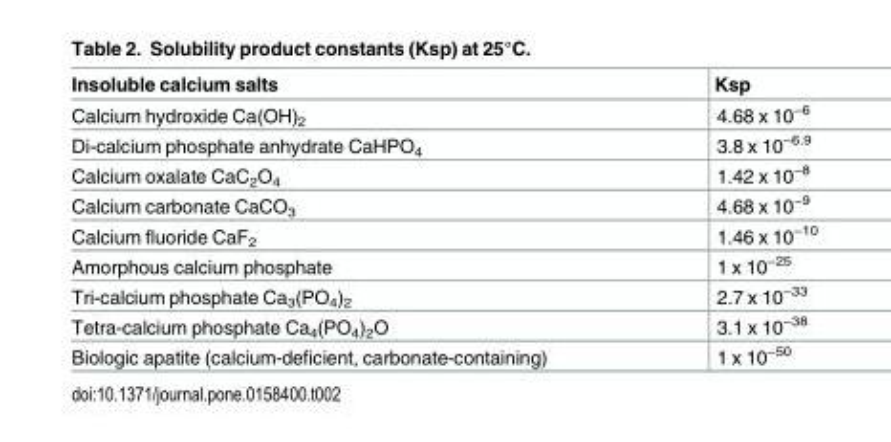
<table><thead><tr><td>Insoluble calcium salts</td><td>Ksp</td></tr></thead><tbody><tr><td>Calcium hydroxide Ca(OH)<sub>2</sub></td><td>4.68 x 10<sup>−6</sup></td></tr><tr><td>Di-calcium phosphate anhydrate CaHPO<sub>4</sub></td><td>3.8 x 10<sup>−6.9</sup></td></tr><tr><td>Calcium oxalate CaC<sub>2</sub>O<sub>4</sub></td><td>1.42 x 10<sup>−8</sup></td></tr><tr><td>Calcium carbonate CaCO<sub>3</sub></td><td>4.68 x 10<sup>−9</sup></td></tr><tr><td>Calcium fluoride CaF<sub>2</sub></td><td>1.46 x 10<sup>−10</sup></td></tr><tr><td>Amorphous calcium phosphate</td><td>1 x 10<sup>−25</sup></td></tr><tr><td>Tri-calcium phosphate Ca<sub>3</sub>(PO<sub>4</sub>)<sub>2</sub></td><td>2.7 x 10<sup>−33</sup></td></tr><tr><td>Tetra-calcium phosphate Ca<sub>4</sub>(PO<sub>4</sub>)<sub>2</sub>O</td><td>3.1 x 10<sup>−38</sup></td></tr><tr><td>Biologic apatite (calcium-deficient, carbonate-containing)</td><td>1 x 10<sup>−50</sup></td></tr></tbody></table>